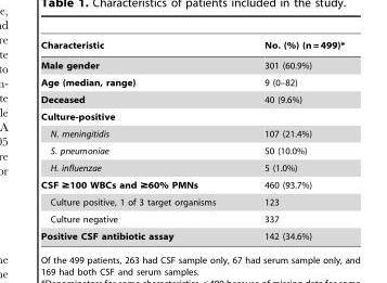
<table><thead><tr><td>Characteristic</td><td>No. (%) (n = 499)*</td></tr></thead><tbody><tr><td>Male gender</td><td>301 (60.9%)</td></tr><tr><td>Age (median, range)</td><td>9 (0–82)</td></tr><tr><td>Deceased</td><td>40 (9.6%)</td></tr><tr><td colspan="2">Culture-positive</td></tr><tr><td>N. meningitidis</td><td>107 (21.4%)</td></tr><tr><td>S. pneumoniae</td><td>50 (10.0%)</td></tr><tr><td>H. influenzae</td><td>5 (1.0%)</td></tr><tr><td>CSF ≥100 WBCs and ≥60% PMNs</td><td>460 (93.7%)</td></tr><tr><td>Culture positive, 1 of 3 target organisms</td><td>123</td></tr><tr><td>Culture negative</td><td>337</td></tr><tr><td>Positive CSF antibiotic assay</td><td>142 (34.6%)</td></tr></tbody></table>